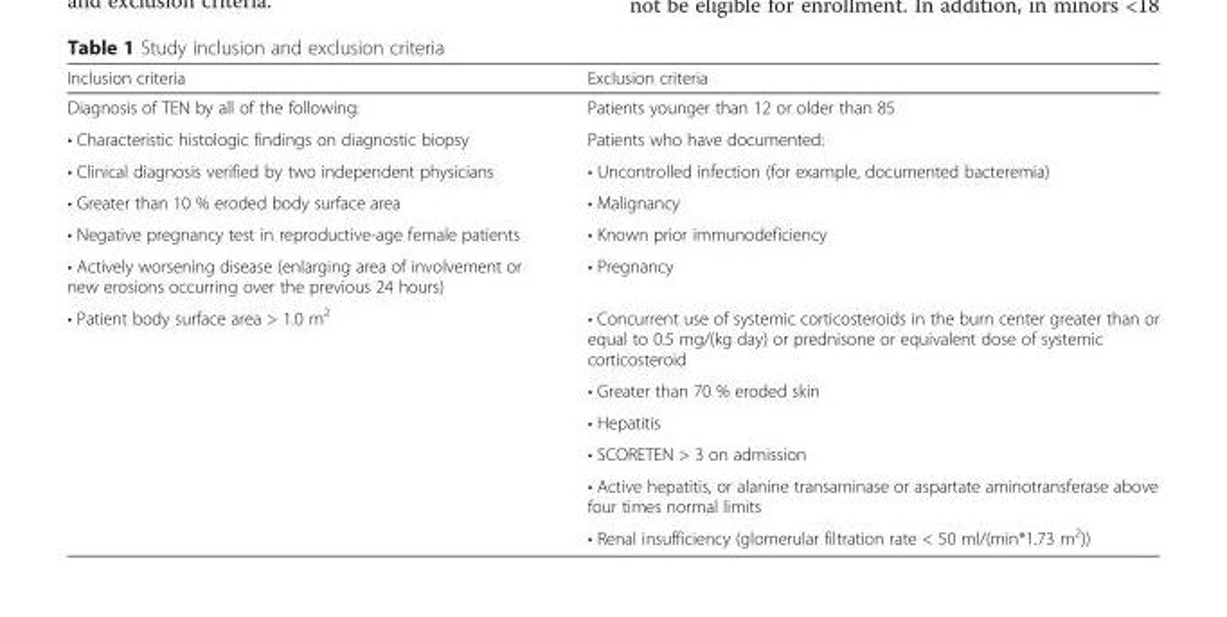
<table><thead><tr><td>Inclusion criteria</td><td>Exclusion criteria</td></tr></thead><tbody><tr><td>Diagnosis of TEN by all of the following:</td><td>Patients younger than 12 or older than 85</td></tr><tr><td>• Characteristic histologic findings on diagnostic biopsy</td><td>Patients who have documented:</td></tr><tr><td>• Clinical diagnosis verified by two independent physicians</td><td>• Uncontrolled infection (for example, documented bacteremia)</td></tr><tr><td>• Greater than 10 % eroded body surface area</td><td>• Malignancy</td></tr><tr><td>• Negative pregnancy test in reproductive-age female patients</td><td>• Known prior immunodeficiency</td></tr><tr><td>• Actively worsening disease (enlarging area of involvement or new erosions occurring over the previous 24 hours)</td><td>• Pregnancy</td></tr><tr><td rowspan="6">• Patient body surface area &gt; 1.0 m<sup>2</sup></td><td>• Concurrent use of systemic corticosteroids in the burn center greater than or equal to 0.5 mg/(kg day) or prednisone or equivalent dose of systemic corticosteroid</td></tr><tr><td>• Greater than 70 % eroded skin</td></tr><tr><td>• Hepatitis</td></tr><tr><td>• SCORETEN &gt; 3 on admission</td></tr><tr><td>• Active hepatitis, or alanine transaminase or aspartate aminotransferase above four times normal limits</td></tr><tr><td>• Renal insufficiency (glomerular filtration rate &lt; 50 ml/(min*1.73 m<sup>2</sup>))</td></tr></tbody></table>